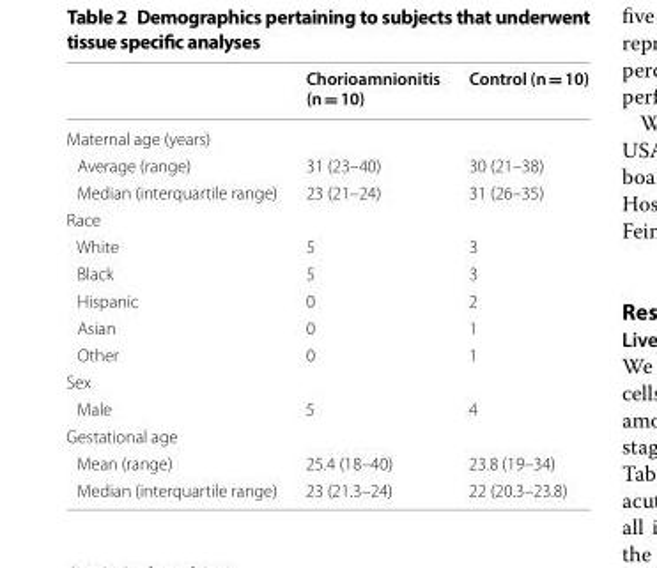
<table><thead><tr><td></td><td>Chorioamnionitis (n = 10)</td><td>Control (n = 10)</td></tr></thead><tbody><tr><td colspan="3">Maternal age (years)</td></tr><tr><td>Average (range)</td><td>31 (23–40)</td><td>30 (21–38)</td></tr><tr><td>Median (interquartile range)</td><td>23 (21–24)</td><td>31 (26–35)</td></tr><tr><td colspan="3">Race</td></tr><tr><td>White</td><td>5</td><td>3</td></tr><tr><td>Black</td><td>5</td><td>3</td></tr><tr><td>Hispanic</td><td>0</td><td>2</td></tr><tr><td>Asian</td><td>0</td><td>1</td></tr><tr><td>Other</td><td>0</td><td>1</td></tr><tr><td colspan="3">Sex</td></tr><tr><td>Male</td><td>5</td><td>4</td></tr><tr><td colspan="3">Gestational age</td></tr><tr><td>Mean (range)</td><td>25.4 (18–40)</td><td>23.8 (19–34)</td></tr><tr><td>Median (interquartile range)</td><td>23 (21.3–24)</td><td>22 (20.3–23.8)</td></tr></tbody></table>